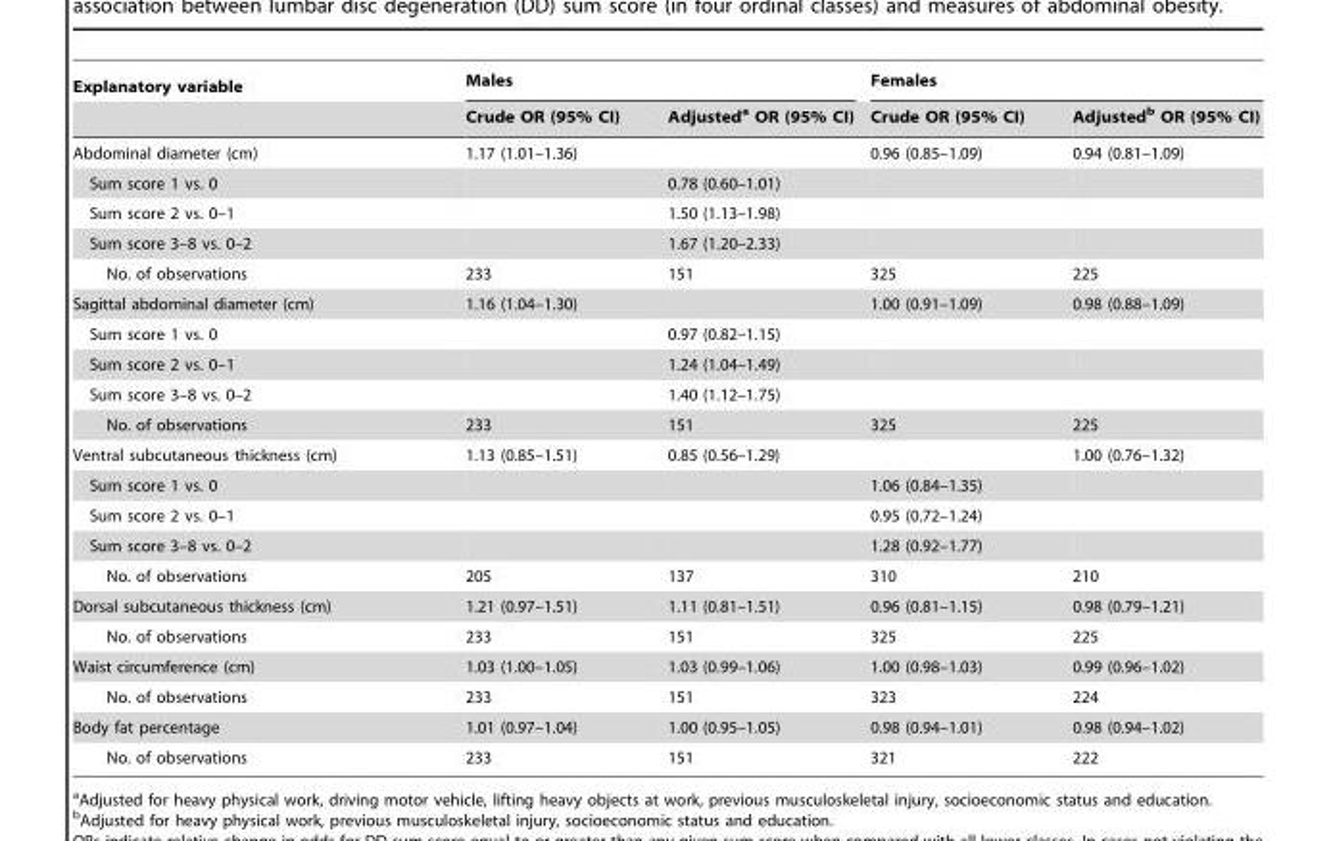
<table><thead><tr><td rowspan="2">Explanatory variable</td><td colspan="2">Males</td><td colspan="2">Females</td></tr><tr><td>Crude OR (95% CI)</td><td>Adjusted<sup>a</sup> OR (95% CI)</td><td>Crude OR (95% CI)</td><td>Adjusted<sup>b</sup> OR (95% CI)</td></tr></thead><tbody><tr><td>Abdominal diameter (cm)</td><td>1.17 (1.01–1.36)</td><td></td><td>0.96 (0.85–1.09)</td><td>0.94 (0.81–1.09)</td></tr><tr><td>Sum score 1 vs. 0</td><td></td><td>0.78 (0.60–1.01)</td><td></td><td></td></tr><tr><td>Sum score 2 vs. 0–1</td><td></td><td>1.50 (1.13–1.98)</td><td></td><td></td></tr><tr><td>Sum score 3–8 vs. 0–2</td><td></td><td>1.67 (1.20–2.33)</td><td></td><td></td></tr><tr><td>No. of observations</td><td>233</td><td>151</td><td>325</td><td>225</td></tr><tr><td>Sagittal abdominal diameter (cm)</td><td>1.16 (1.04–1.30)</td><td></td><td>1.00 (0.91–1.09)</td><td>0.98 (0.88–1.09)</td></tr><tr><td>Sum score 1 vs. 0</td><td></td><td>0.97 (0.82–1.15)</td><td></td><td></td></tr><tr><td>Sum score 2 vs. 0–1</td><td></td><td>1.24 (1.04–1.49)</td><td></td><td></td></tr><tr><td>Sum score 3–8 vs. 0–2</td><td></td><td>1.40 (1.12–1.75)</td><td></td><td></td></tr><tr><td>No. of observations</td><td>233</td><td>151</td><td>325</td><td>225</td></tr><tr><td>Ventral subcutaneous thickness (cm)</td><td>1.13 (0.85–1.51)</td><td>0.85 (0.56–1.29)</td><td></td><td>1.00 (0.76–1.32)</td></tr><tr><td>Sum score 1 vs. 0</td><td></td><td></td><td>1.06 (0.84–1.35)</td><td></td></tr><tr><td>Sum score 2 vs. 0–1</td><td></td><td></td><td>0.95 (0.72–1.24)</td><td></td></tr><tr><td>Sum score 3–8 vs. 0–2</td><td></td><td></td><td>1.28 (0.92–1.77)</td><td></td></tr><tr><td>No. of observations</td><td>205</td><td>137</td><td>310</td><td>210</td></tr><tr><td>Dorsal subcutaneous thickness (cm)</td><td>1.21 (0.97–1.51)</td><td>1.11 (0.81–1.51)</td><td>0.96 (0.81–1.15)</td><td>0.98 (0.79–1.21)</td></tr><tr><td>No. of observations</td><td>233</td><td>151</td><td>325</td><td>225</td></tr><tr><td>Waist circumference (cm)</td><td>1.03 (1.00–1.05)</td><td>1.03 (0.99–1.06)</td><td>1.00 (0.98–1.03)</td><td>0.99 (0.96–1.02)</td></tr><tr><td>No. of observations</td><td>233</td><td>151</td><td>323</td><td>224</td></tr><tr><td>Body fat percentage</td><td>1.01 (0.97–1.04)</td><td>1.00 (0.95–1.05)</td><td>0.98 (0.94–1.01)</td><td>0.98 (0.94–1.02)</td></tr><tr><td>No. of observations</td><td>233</td><td>151</td><td>321</td><td>222</td></tr></tbody></table>